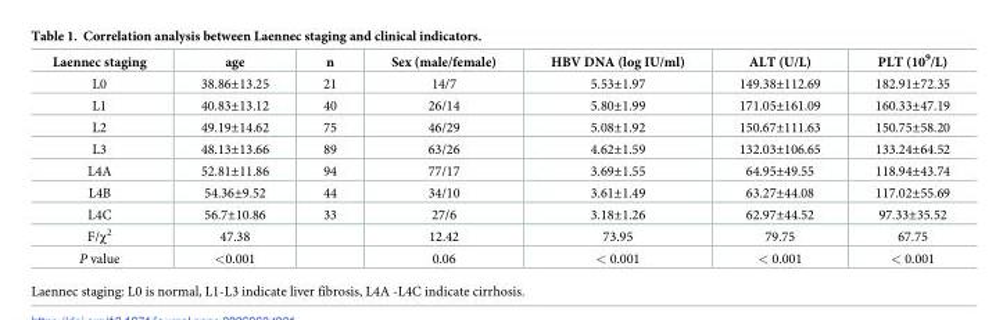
<table><thead><tr><td>Laennec staging</td><td>age</td><td>n</td><td>Sex (male/female)</td><td>HBV DNA (log IU/ml)</td><td>ALT (U/L)</td><td>PLT (10<sup>9</sup>/L)</td></tr></thead><tbody><tr><td>L0</td><td>38.86±13.25</td><td>21</td><td>14/7</td><td>5.53±1.97</td><td>149.38±112.69</td><td>182.91±72.35</td></tr><tr><td>L1</td><td>40.83±13.12</td><td>40</td><td>26/14</td><td>5.80±1.99</td><td>171.05±161.09</td><td>160.33±47.19</td></tr><tr><td>L2</td><td>49.19±14.62</td><td>75</td><td>46/29</td><td>5.08±1.92</td><td>150.67±111.63</td><td>150.75±58.20</td></tr><tr><td>L3</td><td>48.13±13.66</td><td>89</td><td>63/26</td><td>4.62±1.59</td><td>132.03±106.65</td><td>133.24±64.52</td></tr><tr><td>L4A</td><td>52.81±11.86</td><td>94</td><td>77/17</td><td>3.69±1.55</td><td>64.95±49.55</td><td>118.94±43.74</td></tr><tr><td>L4B</td><td>54.36±9.52</td><td>44</td><td>34/10</td><td>3.61±1.49</td><td>63.27±44.08</td><td>117.02±55.69</td></tr><tr><td>L4C</td><td>56.7±10.86</td><td>33</td><td>27/6</td><td>3.18±1.26</td><td>62.97±44.52</td><td>97.33±35.52</td></tr><tr><td>F/χ<sup>2</sup></td><td>47.38</td><td></td><td>12.42</td><td>73.95</td><td>79.75</td><td>67.75</td></tr><tr><td>P value</td><td>&lt;0.001</td><td></td><td>0.06</td><td>&lt; 0.001</td><td>&lt; 0.001</td><td>&lt; 0.001</td></tr></tbody></table>